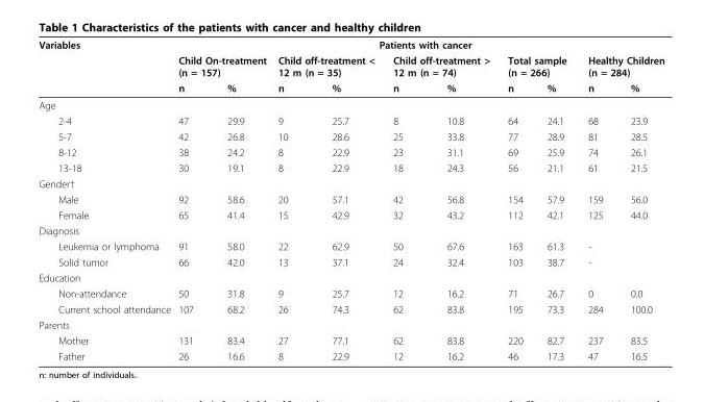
<table><thead><tr><td rowspan="3">Variables</td><td colspan="10">Patients with cancer</td></tr><tr><td colspan="2">Child On-treatment (n = 157)</td><td colspan="2">Child off-treatment &lt; 12 m (n = 35)</td><td colspan="2">Child off-treatment &gt; 12 m (n = 74)</td><td colspan="2">Total sample (n = 266)</td><td colspan="2">Healthy Children (n = 284)</td></tr><tr><td>n</td><td>%</td><td>n</td><td>%</td><td>n</td><td>%</td><td>n</td><td>%</td><td>n</td><td>%</td></tr></thead><tbody><tr><td colspan="11">Age</td></tr><tr><td>2-4</td><td>47</td><td>29.9</td><td>9</td><td>25.7</td><td>8</td><td>10.8</td><td>64</td><td>24.1</td><td>68</td><td>23.9</td></tr><tr><td>5-7</td><td>42</td><td>26.8</td><td>10</td><td>28.6</td><td>25</td><td>33.8</td><td>77</td><td>28.9</td><td>81</td><td>28.5</td></tr><tr><td>8-12</td><td>38</td><td>24.2</td><td>8</td><td>22.9</td><td>23</td><td>31.1</td><td>69</td><td>25.9</td><td>74</td><td>26.1</td></tr><tr><td>13-18</td><td>30</td><td>19.1</td><td>8</td><td>22.9</td><td>18</td><td>24.3</td><td>56</td><td>21.1</td><td>61</td><td>21.5</td></tr><tr><td colspan="11">Gender†</td></tr><tr><td>Male</td><td>92</td><td>58.6</td><td>20</td><td>57.1</td><td>42</td><td>56.8</td><td>154</td><td>57.9</td><td>159</td><td>56.0</td></tr><tr><td>Female</td><td>65</td><td>41.4</td><td>15</td><td>42.9</td><td>32</td><td>43.2</td><td>112</td><td>42.1</td><td>125</td><td>44.0</td></tr><tr><td colspan="11">Diagnosis</td></tr><tr><td>Leukemia or lymphoma</td><td>91</td><td>58.0</td><td>22</td><td>62.9</td><td>50</td><td>67.6</td><td>163</td><td>61.3</td><td colspan="2">-</td></tr><tr><td>Solid tumor</td><td>66</td><td>42.0</td><td>13</td><td>37.1</td><td>24</td><td>32.4</td><td>103</td><td>38.7</td><td colspan="2">-</td></tr><tr><td colspan="11">Education</td></tr><tr><td>Non-attendance</td><td>50</td><td>31.8</td><td>9</td><td>25.7</td><td>12</td><td>16.2</td><td>71</td><td>26.7</td><td>0</td><td>0.0</td></tr><tr><td>Current school attendance</td><td>107</td><td>68.2</td><td>26</td><td>74.3</td><td>62</td><td>83.8</td><td>195</td><td>73.3</td><td>284</td><td>100.0</td></tr><tr><td colspan="11">Parents</td></tr><tr><td>Mother</td><td>131</td><td>83.4</td><td>27</td><td>77.1</td><td>62</td><td>83.8</td><td>220</td><td>82.7</td><td>237</td><td>83.5</td></tr><tr><td>Father</td><td>26</td><td>16.6</td><td>8</td><td>22.9</td><td>12</td><td>16.2</td><td>46</td><td>17.3</td><td>47</td><td>16.5</td></tr></tbody></table>